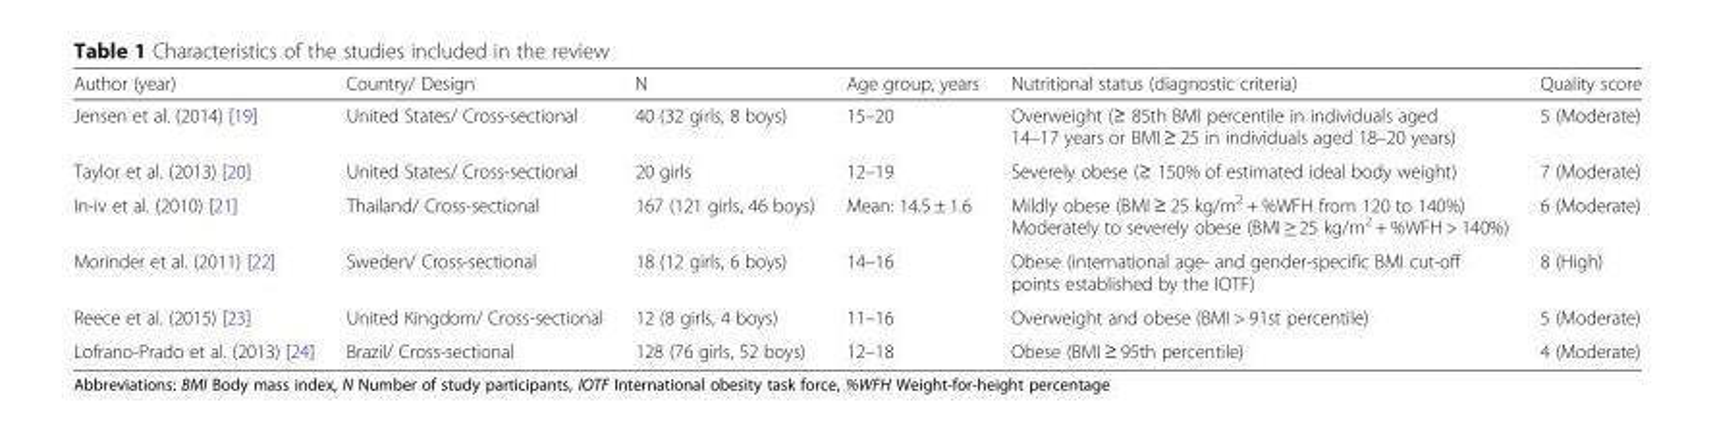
<table><thead><tr><td>Author (year)</td><td>Country/ Design</td><td>N</td><td>Age group, years</td><td>Nutritional status (diagnostic criteria)</td><td>Quality score</td></tr></thead><tbody><tr><td>Jensen et al. (2014) [19]</td><td>United States/ Cross-sectional</td><td>40 (32 girls, 8 boys)</td><td>15–20</td><td>Overweight (≥ 85th BMI percentile in individuals aged 14–17 years or BMI ≥ 25 in individuals aged 18–20 years)</td><td>5 (Moderate)</td></tr><tr><td>Taylor et al. (2013) [20]</td><td>United States/ Cross-sectional</td><td>20 girls</td><td>12–19</td><td>Severely obese (≥ 150% of estimated ideal body weight)</td><td>7 (Moderate)</td></tr><tr><td>In-iv et al. (2010) [21]</td><td>Thailand/ Cross-sectional</td><td>167 (121 girls, 46 boys)</td><td>Mean: 14.5 ± 1.6</td><td>Mildly obese (BMI ≥ 25 kg/m<sup>2</sup> + %WFH from 120 to 140%) Moderately to severely obese (BMI ≥ 25 kg/m<sup>2</sup> + %WFH &gt; 140%)</td><td>6 (Moderate)</td></tr><tr><td>Morinder et al. (2011) [22]</td><td>Sweden/ Cross-sectional</td><td>18 (12 girls, 6 boys)</td><td>14–16</td><td>Obese (international age- and gender-specific BMI cut-off points established by the IOTF)</td><td>8 (High)</td></tr><tr><td>Reece et al. (2015) [23]</td><td>United Kingdom/ Cross-sectional</td><td>12 (8 girls, 4 boys)</td><td>11–16</td><td>Overweight and obese (BMI &gt; 91st percentile)</td><td>5 (Moderate)</td></tr><tr><td>Lofrano-Prado et al. (2013) [24]</td><td>Brazil/ Cross-sectional</td><td>128 (76 girls, 52 boys)</td><td>12–18</td><td>Obese (BMI ≥ 95th percentile)</td><td>4 (Moderate)</td></tr></tbody></table>